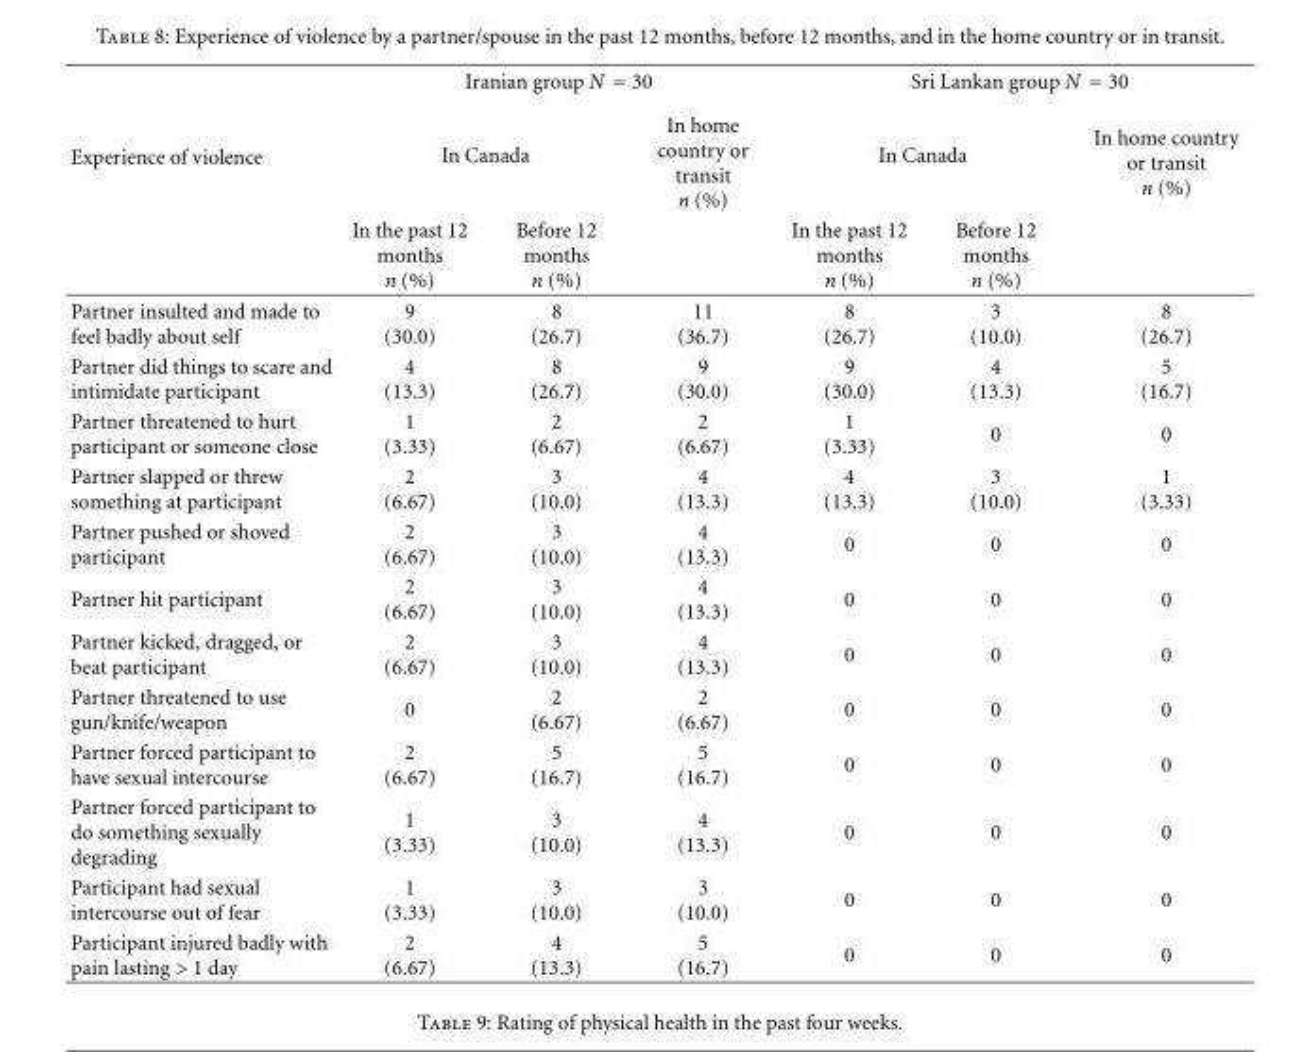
<table><thead><tr><td rowspan="3">Experience of violence</td><td colspan="3">Iranian group N = 30</td><td colspan="3">Sri Lankan group N = 30</td></tr><tr><td colspan="2">In Canada</td><td rowspan="2">In home country or transit n (%)</td><td colspan="2">In Canada</td><td rowspan="2">In home country or transit n (%)</td></tr><tr><td>In the past 12 months n (%)</td><td>Before 12 months n (%)</td><td>In the past 12 months n (%)</td><td>Before 12 months n (%)</td></tr></thead><tbody><tr><td>Partner insulted and made to feel badly about self</td><td>9 (30.0)</td><td>8 (26.7)</td><td>11 (36.7)</td><td>8 (26.7)</td><td>3 (10.0)</td><td>8 (26.7)</td></tr><tr><td>Partner did things to scare and intimidate participant</td><td>4 (13.3)</td><td>8 (26.7)</td><td>9 (30.0)</td><td>9 (30.0)</td><td>4 (13.3)</td><td>5 (16.7)</td></tr><tr><td>Partner threatened to hurt participant or someone close</td><td>1 (3.33)</td><td>2 (6.67)</td><td>2 (6.67)</td><td>1 (3.33)</td><td>0</td><td>0</td></tr><tr><td>Partner slapped or threw something at participant</td><td>2 (6.67)</td><td>3 (10.0)</td><td>4 (13.3)</td><td>4 (13.3)</td><td>3 (10.0)</td><td>1 (3.33)</td></tr><tr><td>Partner pushed or shoved participant</td><td>2 (6.67)</td><td>3 (10.0)</td><td>4 (13.3)</td><td>0</td><td>0</td><td>0</td></tr><tr><td>Partner hit participant</td><td>2 (6.67)</td><td>3 (10.0)</td><td>4 (13.3)</td><td>0</td><td>0</td><td>0</td></tr><tr><td>Partner kicked, dragged, or beat participant</td><td>2 (6.67)</td><td>3 (10.0)</td><td>4 (13.3)</td><td>0</td><td>0</td><td>0</td></tr><tr><td>Partner threatened to use gun/knife/weapon</td><td>0</td><td>2 (6.67)</td><td>2 (6.67)</td><td>0</td><td>0</td><td>0</td></tr><tr><td>Partner forced participant to have sexual intercourse</td><td>2 (6.67)</td><td>5 (16.7)</td><td>5 (16.7)</td><td>0</td><td>0</td><td>0</td></tr><tr><td>Partner forced participant to do something sexually degrading</td><td>1 (3.33)</td><td>3 (10.0)</td><td>4 (13.3)</td><td>0</td><td>0</td><td>0</td></tr><tr><td>Participant had sexual intercourse out of fear</td><td>1 (3.33)</td><td>3 (10.0)</td><td>3 (10.0)</td><td>0</td><td>0</td><td>0</td></tr><tr><td>Participant injured badly with pain lasting &gt; 1 day</td><td>2 (6.67)</td><td>4 (13.3)</td><td>5 (16.7)</td><td>0</td><td>0</td><td>0</td></tr></tbody></table>